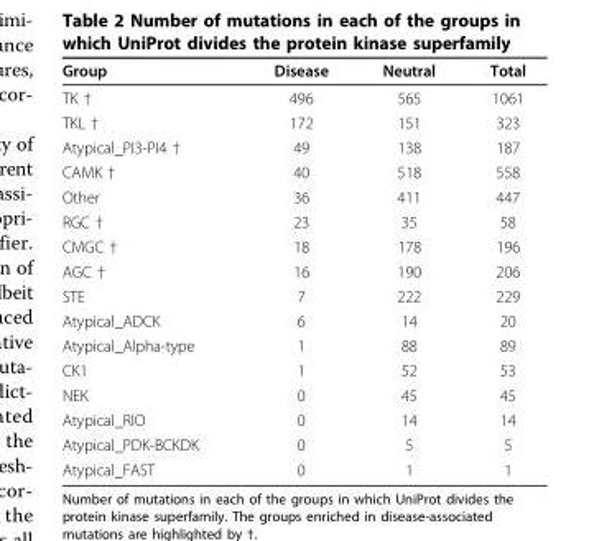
<table><thead><tr><td>Group</td><td>Disease</td><td>Neutral</td><td>Total</td></tr></thead><tbody><tr><td>TK †</td><td>496</td><td>565</td><td>1061</td></tr><tr><td>TKL †</td><td>172</td><td>151</td><td>323</td></tr><tr><td>Atypical_PI3-PI4 †</td><td>49</td><td>138</td><td>187</td></tr><tr><td>CAMK †</td><td>40</td><td>518</td><td>558</td></tr><tr><td>Other</td><td>36</td><td>411</td><td>447</td></tr><tr><td>RGC †</td><td>23</td><td>35</td><td>58</td></tr><tr><td>CMGC †</td><td>18</td><td>178</td><td>196</td></tr><tr><td>AGC †</td><td>16</td><td>190</td><td>206</td></tr><tr><td>STE</td><td>7</td><td>222</td><td>229</td></tr><tr><td>Atypical_ADCK</td><td>6</td><td>14</td><td>20</td></tr><tr><td>Atypical_Alpha-type</td><td>1</td><td>88</td><td>89</td></tr><tr><td>CK1</td><td>1</td><td>52</td><td>53</td></tr><tr><td>NEK</td><td>0</td><td>45</td><td>45</td></tr><tr><td>Atypical_RIO</td><td>0</td><td>14</td><td>14</td></tr><tr><td>Atypical_PDK-BCKDK</td><td>0</td><td>5</td><td>5</td></tr><tr><td>Atypical_FAST</td><td>0</td><td>1</td><td>1</td></tr></tbody></table>